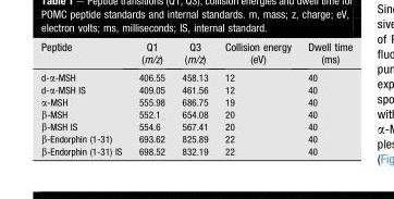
<table><thead><tr><td>Peptide</td><td>Q1 (m/z)</td><td>Q3 (m/z)</td><td>Collision energy (eV)</td><td>Dwell time (ms)</td></tr></thead><tbody><tr><td>d-α-MSH</td><td>406.55</td><td>458.13</td><td>12</td><td>40</td></tr><tr><td>d-α-MSH IS</td><td>409.05</td><td>461.56</td><td>12</td><td>40</td></tr><tr><td>α-MSH</td><td>555.98</td><td>686.75</td><td>19</td><td>40</td></tr><tr><td>β-MSH</td><td>552.1</td><td>654.08</td><td>20</td><td>40</td></tr><tr><td>β-MSH IS</td><td>554.6</td><td>567.41</td><td>20</td><td>40</td></tr><tr><td>β-Endorphin (1-31)</td><td>693.62</td><td>825.89</td><td>22</td><td>40</td></tr><tr><td>β-Endorphin (1-31) IS</td><td>698.52</td><td>832.19</td><td>22</td><td>40</td></tr></tbody></table>